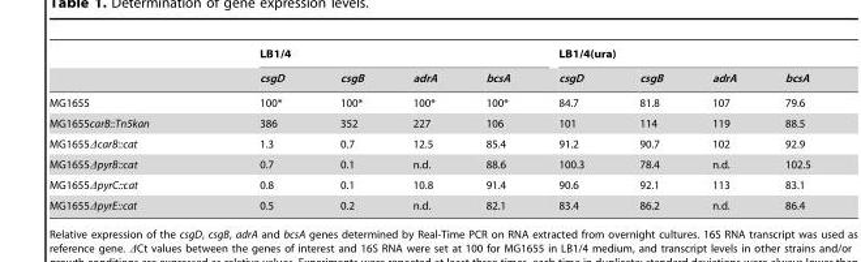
<table><thead><tr><td rowspan="2"></td><td colspan="4">LB1/4</td><td colspan="4">LB1/4(ura)</td></tr><tr><td>csgD</td><td>csgB</td><td>adrA</td><td>bcsA</td><td>csgD</td><td>csgB</td><td>adrA</td><td>bcsA</td></tr></thead><tbody><tr><td>MG1655</td><td>100*</td><td>100*</td><td>100*</td><td>100*</td><td>84.7</td><td>81.8</td><td>107</td><td>79.6</td></tr><tr><td>MG1655carB::Tn5kan</td><td>386</td><td>352</td><td>227</td><td>106</td><td>101</td><td>114</td><td>119</td><td>88.5</td></tr><tr><td>MG1655ΔcarB::cat</td><td>1.3</td><td>0.7</td><td>12.5</td><td>85.4</td><td>91.2</td><td>90.7</td><td>102</td><td>92.9</td></tr><tr><td>MG1655ΔpyrB::cat</td><td>0.7</td><td>0.1</td><td>n.d.</td><td>88.6</td><td>100.3</td><td>78.4</td><td>n.d.</td><td>102.5</td></tr><tr><td>MG1655ΔpyrC::cat</td><td>0.8</td><td>0.1</td><td>10.8</td><td>91.4</td><td>90.6</td><td>92.1</td><td>113</td><td>83.1</td></tr><tr><td>MG1655ΔpyrE::cat</td><td>0.5</td><td>0.2</td><td>n.d.</td><td>82.1</td><td>83.4</td><td>86.2</td><td>n.d.</td><td>86.4</td></tr></tbody></table>